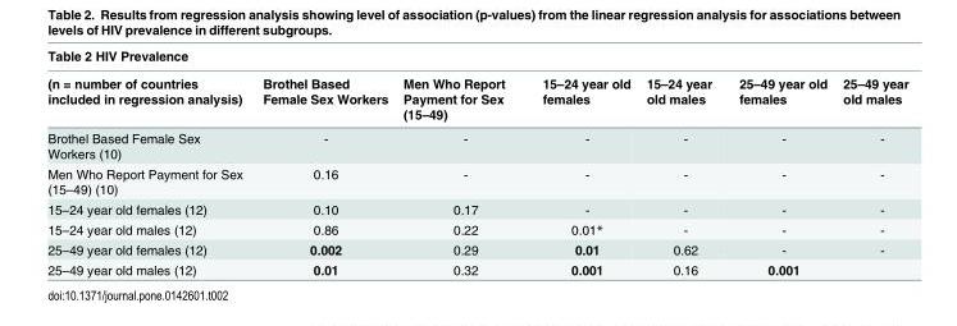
<table><thead><tr><td colspan="7">Table 2 HIV Prevalence</td></tr><tr><td>(n = number of countries included in regression analysis)</td><td>Brothel Based Female Sex Workers</td><td>Men Who Report Payment for Sex (15–49)</td><td>15–24 year old females</td><td>15–24 year old males</td><td>25–49 year old females</td><td>25–49 year old males</td></tr></thead><tbody><tr><td>Brothel Based Female Sex Workers (10)</td><td>-</td><td>-</td><td>-</td><td>-</td><td>-</td><td>-</td></tr><tr><td>Men Who Report Payment for Sex (15–49) (10)</td><td>0.16</td><td>-</td><td>-</td><td>-</td><td>-</td><td>-</td></tr><tr><td>15–24 year old females (12)</td><td>0.10</td><td>0.17</td><td>-</td><td>-</td><td>-</td><td>-</td></tr><tr><td>15–24 year old males (12)</td><td>0.86</td><td>0.22</td><td>0.01*</td><td>-</td><td>-</td><td>-</td></tr><tr><td>25–49 year old females (12)</td><td>0.002</td><td>0.29</td><td>0.01</td><td>0.62</td><td>-</td><td>-</td></tr><tr><td>25–49 year old males (12)</td><td>0.01</td><td>0.32</td><td>0.001</td><td>0.16</td><td>0.001</td><td></td></tr></tbody></table>